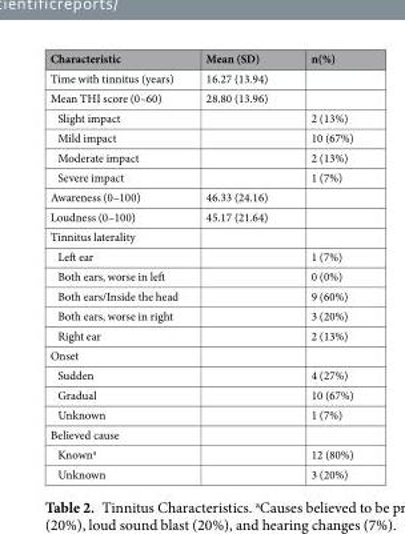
<table><thead><tr><td>Characteristic</td><td>Mean (SD)</td><td>n(%)</td></tr></thead><tbody><tr><td>Time with tinnitus (years)</td><td>16.27 (13.94)</td><td></td></tr><tr><td>Mean THI score (0–60)</td><td>28.80 (13.96)</td><td></td></tr><tr><td>Slight impact</td><td></td><td>2 (13%)</td></tr><tr><td>Mild impact</td><td></td><td>10 (67%)</td></tr><tr><td>Moderate impact</td><td></td><td>2 (13%)</td></tr><tr><td>Severe impact</td><td></td><td>1 (7%)</td></tr><tr><td>Awareness (0–100)</td><td>46.33 (24.16)</td><td></td></tr><tr><td>Loudness (0–100)</td><td>45.17 (21.64)</td><td></td></tr><tr><td colspan="3">Tinnitus laterality</td></tr><tr><td>Left ear</td><td></td><td>1 (7%)</td></tr><tr><td>Both ears, worse in left</td><td></td><td>0 (0%)</td></tr><tr><td>Both ears/Inside the head</td><td></td><td>9 (60%)</td></tr><tr><td>Both ears, worse in right</td><td></td><td>3 (20%)</td></tr><tr><td>Right ear</td><td></td><td>2 (13%)</td></tr><tr><td colspan="3">Onset</td></tr><tr><td>Sudden</td><td></td><td>4 (27%)</td></tr><tr><td>Gradual</td><td></td><td>10 (67%)</td></tr><tr><td>Unknown</td><td></td><td>1 (7%)</td></tr><tr><td colspan="3">Believed cause</td></tr><tr><td>Known<sup>a</sup></td><td></td><td>12 (80%)</td></tr><tr><td>Unknown</td><td></td><td>3 (20%)</td></tr></tbody></table>